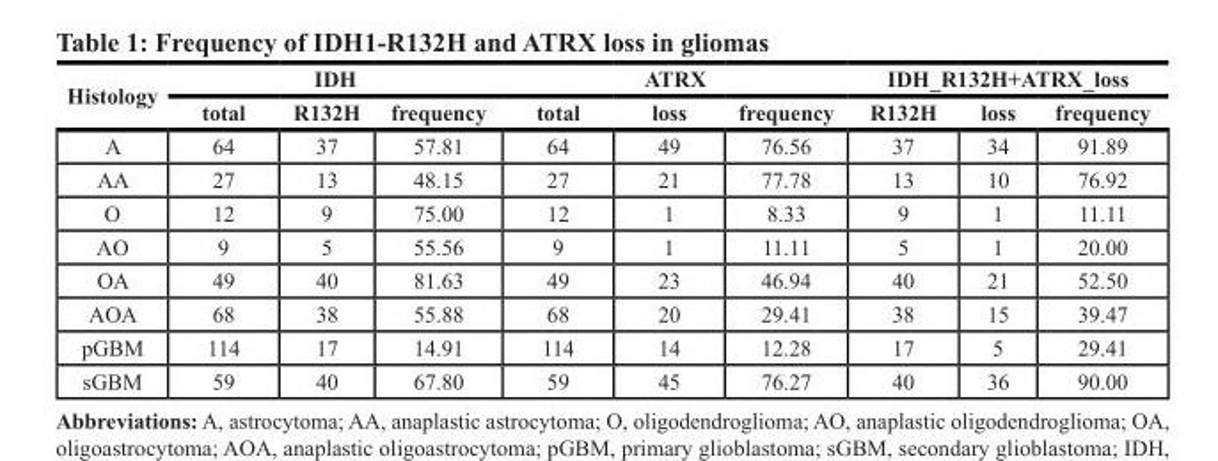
<table><thead><tr><td rowspan="2">Histology</td><td colspan="3">IDH</td><td colspan="3">ATRX</td><td colspan="3">IDH_R132H+ATRX_loss</td></tr><tr><td>total</td><td>R132H</td><td>frequency</td><td>total</td><td>loss</td><td>frequency</td><td>R132H</td><td>loss</td><td>frequency</td></tr></thead><tbody><tr><td>A</td><td>64</td><td>37</td><td>57.81</td><td>64</td><td>49</td><td>76.56</td><td>37</td><td>34</td><td>91.89</td></tr><tr><td>AA</td><td>27</td><td>13</td><td>48.15</td><td>27</td><td>21</td><td>77.78</td><td>13</td><td>10</td><td>76.92</td></tr><tr><td>O</td><td>12</td><td>9</td><td>75.00</td><td>12</td><td>1</td><td>8.33</td><td>9</td><td>1</td><td>11.11</td></tr><tr><td>AO</td><td>9</td><td>5</td><td>55.56</td><td>9</td><td>1</td><td>11.11</td><td>5</td><td>1</td><td>20.00</td></tr><tr><td>OA</td><td>49</td><td>40</td><td>81.63</td><td>49</td><td>23</td><td>46.94</td><td>40</td><td>21</td><td>52.50</td></tr><tr><td>AOA</td><td>68</td><td>38</td><td>55.88</td><td>68</td><td>20</td><td>29.41</td><td>38</td><td>15</td><td>39.47</td></tr><tr><td>pGBM</td><td>114</td><td>17</td><td>14.91</td><td>114</td><td>14</td><td>12.28</td><td>17</td><td>5</td><td>29.41</td></tr><tr><td>sGBM</td><td>59</td><td>40</td><td>67.80</td><td>59</td><td>45</td><td>76.27</td><td>40</td><td>36</td><td>90.00</td></tr></tbody></table>